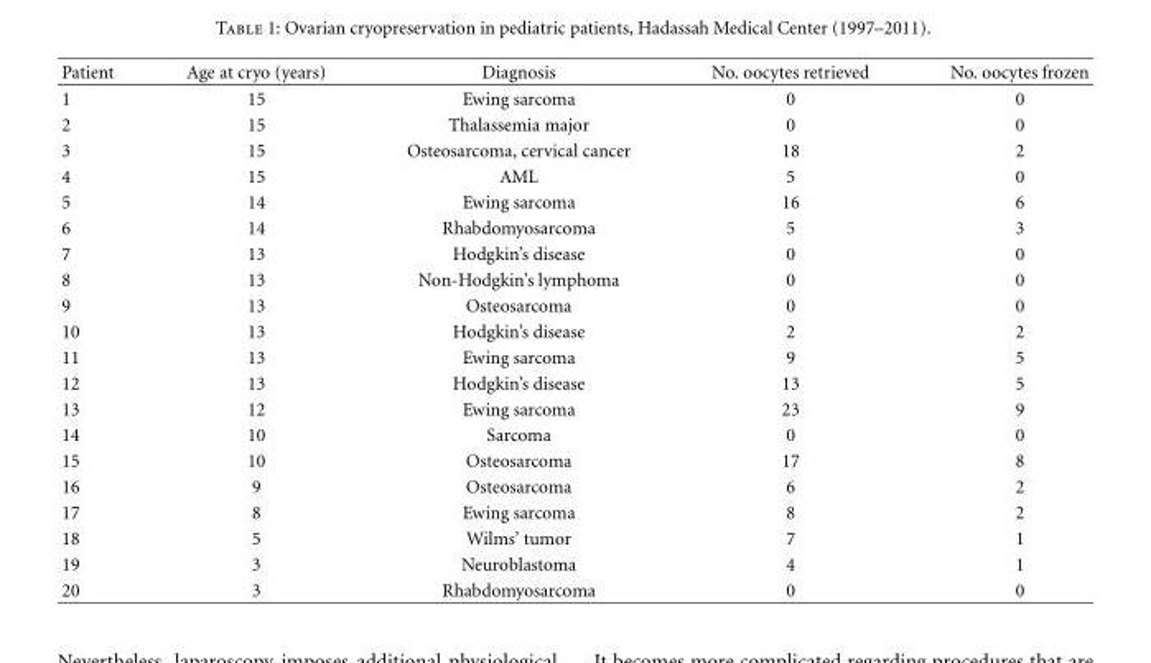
<table><thead><tr><td>Patient</td><td>Age at cryo (years)</td><td>Diagnosis</td><td>No. oocytes retrieved</td><td>No. oocytes frozen</td></tr></thead><tbody><tr><td>1</td><td>15</td><td>Ewing sarcoma</td><td>0</td><td>0</td></tr><tr><td>2</td><td>15</td><td>Thalassemia major</td><td>0</td><td>0</td></tr><tr><td>3</td><td>15</td><td>Osteosarcoma, cervical cancer</td><td>18</td><td>2</td></tr><tr><td>4</td><td>15</td><td>AML</td><td>5</td><td>0</td></tr><tr><td>5</td><td>14</td><td>Ewing sarcoma</td><td>16</td><td>6</td></tr><tr><td>6</td><td>14</td><td>Rhabdomyosarcoma</td><td>5</td><td>3</td></tr><tr><td>7</td><td>13</td><td>Hodgkin’s disease</td><td>0</td><td>0</td></tr><tr><td>8</td><td>13</td><td>Non-Hodgkin’s lymphoma</td><td>0</td><td>0</td></tr><tr><td>9</td><td>13</td><td>Osteosarcoma</td><td>0</td><td>0</td></tr><tr><td>10</td><td>13</td><td>Hodgkin’s disease</td><td>2</td><td>2</td></tr><tr><td>11</td><td>13</td><td>Ewing sarcoma</td><td>9</td><td>5</td></tr><tr><td>12</td><td>13</td><td>Hodgkin’s disease</td><td>13</td><td>5</td></tr><tr><td>13</td><td>12</td><td>Ewing sarcoma</td><td>23</td><td>9</td></tr><tr><td>14</td><td>10</td><td>Sarcoma</td><td>0</td><td>0</td></tr><tr><td>15</td><td>10</td><td>Osteosarcoma</td><td>17</td><td>8</td></tr><tr><td>16</td><td>9</td><td>Osteosarcoma</td><td>6</td><td>2</td></tr><tr><td>17</td><td>8</td><td>Ewing sarcoma</td><td>8</td><td>2</td></tr><tr><td>18</td><td>5</td><td>Wilms’ tumor</td><td>7</td><td>1</td></tr><tr><td>19</td><td>3</td><td>Neuroblastoma</td><td>4</td><td>1</td></tr><tr><td>20</td><td>3</td><td>Rhabdomyosarcoma</td><td>0</td><td>0</td></tr></tbody></table>